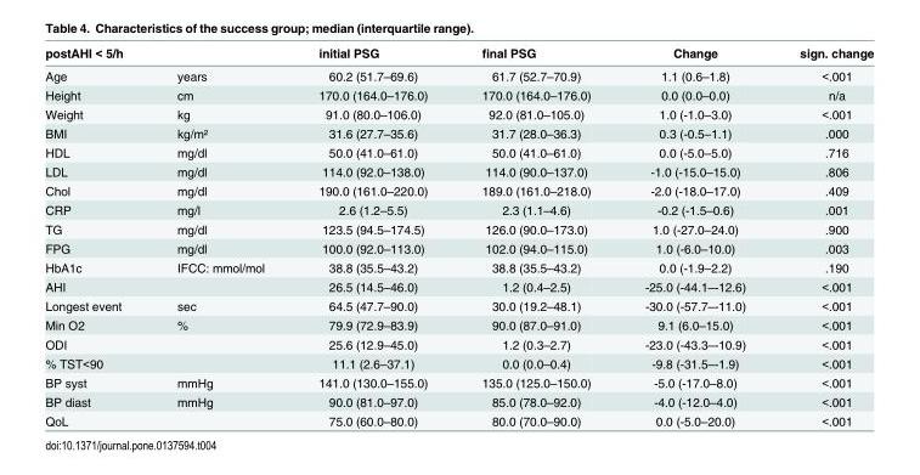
<table><thead><tr><td>postAHI &lt; 5/h</td><td></td><td>initial PSG</td><td>final PSG</td><td>Change</td><td>sign. change</td></tr></thead><tbody><tr><td>Age</td><td>years</td><td>60.2 (51.7–69.6)</td><td>61.7 (52.7–70.9)</td><td>1.1 (0.6–1.8)</td><td>&lt;.001</td></tr><tr><td>Height</td><td>cm</td><td>170.0 (164.0–176.0)</td><td>170.0 (164.0–176.0)</td><td>0.0 (0.0–0.0)</td><td>n/a</td></tr><tr><td>Weight</td><td>kg</td><td>91.0 (80.0–106.0)</td><td>92.0 (81.0–105.0)</td><td>1.0 (-1.0–3.0)</td><td>&lt;.001</td></tr><tr><td>BMI</td><td>kg/m²</td><td>31.6 (27.7–35.6)</td><td>31.7 (28.0–36.3)</td><td>0.3 (-0.5–1.1)</td><td>.000</td></tr><tr><td>HDL</td><td>mg/dl</td><td>50.0 (41.0–61.0)</td><td>50.0 (41.0–61.0)</td><td>0.0 (-5.0–5.0)</td><td>.716</td></tr><tr><td>LDL</td><td>mg/dl</td><td>114.0 (92.0–138.0)</td><td>114.0 (90.0–137.0)</td><td>-1.0 (-15.0–15.0)</td><td>.806</td></tr><tr><td>Chol</td><td>mg/dl</td><td>190.0 (161.0–220.0)</td><td>189.0 (161.0–218.0)</td><td>-2.0 (-18.0–17.0)</td><td>.409</td></tr><tr><td>CRP</td><td>mg/l</td><td>2.6 (1.2–5.5)</td><td>2.3 (1.1–4.6)</td><td>-0.2 (-1.5–0.6)</td><td>.001</td></tr><tr><td>TG</td><td>mg/dl</td><td>123.5 (94.5–174.5)</td><td>126.0 (90.0–173.0)</td><td>1.0 (-27.0–24.0)</td><td>.900</td></tr><tr><td>FPG</td><td>mg/dl</td><td>100.0 (92.0–113.0)</td><td>102.0 (94.0–115.0)</td><td>1.0 (-6.0–10.0)</td><td>.003</td></tr><tr><td>HbA1c</td><td>IFCC: mmol/mol</td><td>38.8 (35.5–43.2)</td><td>38.8 (35.5–43.2)</td><td>0.0 (-1.9–2.2)</td><td>.190</td></tr><tr><td>AHI</td><td></td><td>26.5 (14.5–46.0)</td><td>1.2 (0.4–2.5)</td><td>-25.0 (-44.1–-12.6)</td><td>&lt;.001</td></tr><tr><td>Longest event</td><td>sec</td><td>64.5 (47.7–90.0)</td><td>30.0 (19.2–48.1)</td><td>-30.0 (-57.7–-11.0)</td><td>&lt;.001</td></tr><tr><td>Min O2</td><td>%</td><td>79.9 (72.9–83.9)</td><td>90.0 (87.0–91.0)</td><td>9.1 (6.0–15.0)</td><td>&lt;.001</td></tr><tr><td>ODI</td><td></td><td>25.6 (12.9–45.0)</td><td>1.2 (0.3–2.7)</td><td>-23.0 (-43.3–-10.9)</td><td>&lt;.001</td></tr><tr><td>% TST&lt;90</td><td></td><td>11.1 (2.6–37.1)</td><td>0.0 (0.0–0.4)</td><td>-9.8 (-31.5–-1.9)</td><td>&lt;.001</td></tr><tr><td>BP syst</td><td>mmHg</td><td>141.0 (130.0–155.0)</td><td>135.0 (125.0–150.0)</td><td>-5.0 (-17.0–8.0)</td><td>&lt;.001</td></tr><tr><td>BP diast</td><td>mmHg</td><td>90.0 (81.0–97.0)</td><td>85.0 (78.0–92.0)</td><td>-4.0 (-12.0–4.0)</td><td>&lt;.001</td></tr><tr><td>QoL</td><td></td><td>75.0 (60.0–80.0)</td><td>80.0 (70.0–90.0)</td><td>0.0 (-5.0–20.0)</td><td>&lt;.001</td></tr></tbody></table>